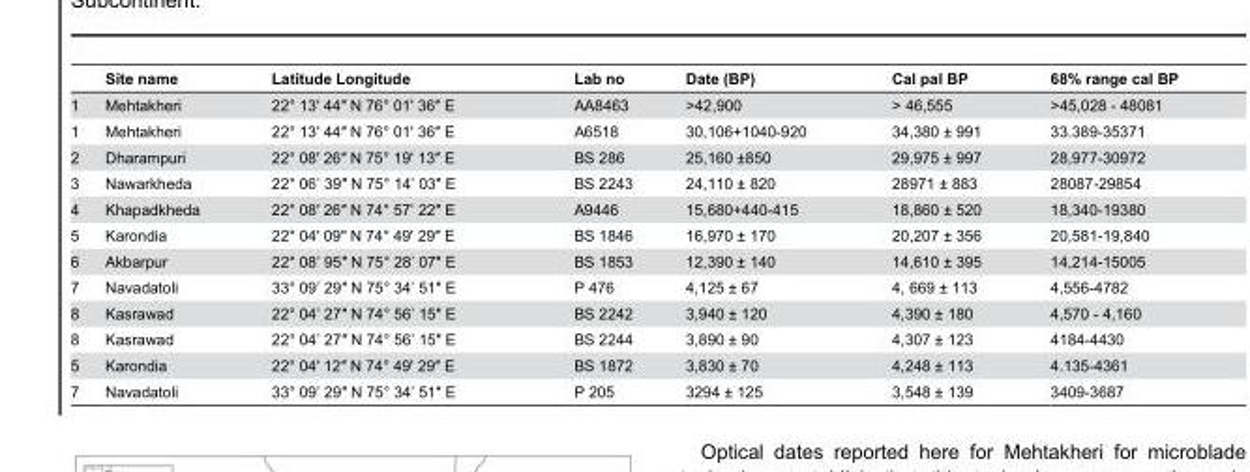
<table><thead><tr><td></td><td>Site name</td><td>Latitude Longitude</td><td>Lab no</td><td>Date (BP)</td><td>Cal pal BP</td><td>68% range cal BP</td></tr></thead><tbody><tr><td>1</td><td>Mehtakheri</td><td>22° 13&#x27; 44″ N 76° 01&#x27; 36″ E</td><td>AA8463</td><td>&gt;42,900</td><td>&gt; 46,555</td><td>&gt;45,028 - 48081</td></tr><tr><td>1</td><td>Mehtakheri</td><td>22° 13&#x27; 44″ N 76° 01&#x27; 36″ E</td><td>A6518</td><td>30,106+1040-920</td><td>34,380 ± 991</td><td>33.389-35371</td></tr><tr><td>2</td><td>Dharampuri</td><td>22° 08&#x27; 26″ N 75° 19&#x27; 13″ E</td><td>BS 286</td><td>25,160 ±850</td><td>29,975 ± 997</td><td>28,977-30972</td></tr><tr><td>3</td><td>Nawarkheda</td><td>22° 06’ 39″ N 75° 14’ 03&quot; E</td><td>BS 2243</td><td>24,110 ± 820</td><td>28971 ± 883</td><td>28087-29854</td></tr><tr><td>4</td><td>Khapadkheda</td><td>22° 08&#x27; 26″ N 74° 57’ 22″ E</td><td>A9446</td><td>15,680+440-415</td><td>18,860 ± 520</td><td>18,340-19380</td></tr><tr><td>5</td><td>Karondia</td><td>22° 04&#x27; 09&quot; N 74° 49&#x27; 29″ E</td><td>BS 1846</td><td>16,970 ± 170</td><td>20,207 ± 356</td><td>20,581-19,840</td></tr><tr><td>6</td><td>Akbarpur</td><td>22° 08’ 95″ N 75° 28’ 07&quot; E</td><td>BS 1853</td><td>12,390 ± 140</td><td>14,610 ± 395</td><td>14,214-15005</td></tr><tr><td>7</td><td>Navadatoli</td><td>33° 09’ 29″ N 75° 34’ 51″ E</td><td>P 476</td><td>4,125 ± 67</td><td>4, 669 ± 113</td><td>4,556-4782</td></tr><tr><td>8</td><td>Kasrawad</td><td>22° 04’ 27″ N 74° 56’ 15″ E</td><td>BS 2242</td><td>3,940 ± 120</td><td>4,390 ± 180</td><td>4,570 - 4,160</td></tr><tr><td>8</td><td>Kasrawad</td><td>22° 04’ 27″ N 74° 56’ 15″ E</td><td>BS 2244</td><td>3,890 ± 90</td><td>4,307 ± 123</td><td>4184-4430</td></tr><tr><td>5</td><td>Karondia</td><td>22° 04&#x27; 12″ N 74° 49&#x27; 29″ E</td><td>BS 1872</td><td>3,830 ± 70</td><td>4,248 ± 113</td><td>4.135-4361</td></tr><tr><td>7</td><td>Navadatoli</td><td>33° 09’ 29″ N 75° 34’ 51″ E</td><td>P 205</td><td>3294 ± 125</td><td>3,548 ± 139</td><td>3409-3687</td></tr></tbody></table>